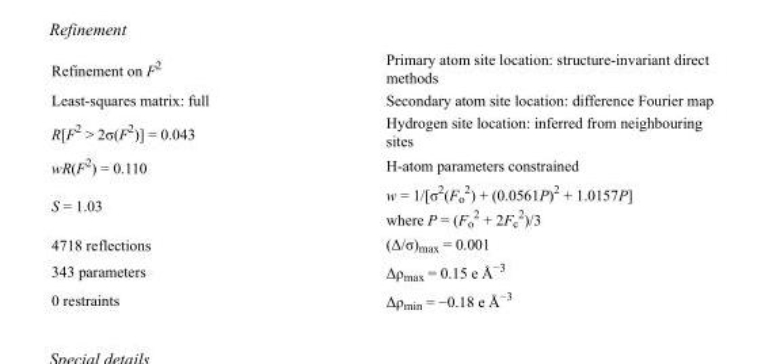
<table><tbody><tr><td>Refinement on F<sup>2</sup></td><td>Primary atom site location: structure-invariant direct methods</td></tr><tr><td>Least-squares matrix: full</td><td>Secondary atom site location: difference Fourier map</td></tr><tr><td>R[F<sup>2</sup> &gt; 2σ(F<sup>2</sup>)] = 0.043</td><td>Hydrogen site location: inferred from neighbouring sites</td></tr><tr><td>wR(F<sup>2</sup>) = 0.110</td><td>H-atom parameters constrained</td></tr><tr><td>S = 1.03</td><td>w = 1/[σ<sup>2</sup>(F<sub>o</sub> <sup>2</sup>) + (0.0561P)<sup>2</sup> + 1.0157P] where P = (F<sub>o</sub> <sup>2</sup> + 2F<sub>c</sub> <sup>2</sup>)/3</td></tr><tr><td>4718 reflections</td><td>(Δ/σ)<sub>max</sub> = 0.001</td></tr><tr><td>343 parameters</td><td>Δρ<sub>max</sub> = 0.15 e Å<sup>−3</sup></td></tr><tr><td>0 restraints</td><td>Δρ<sub>min</sub> = −0.18 e Å<sup>−3</sup></td></tr></tbody></table>